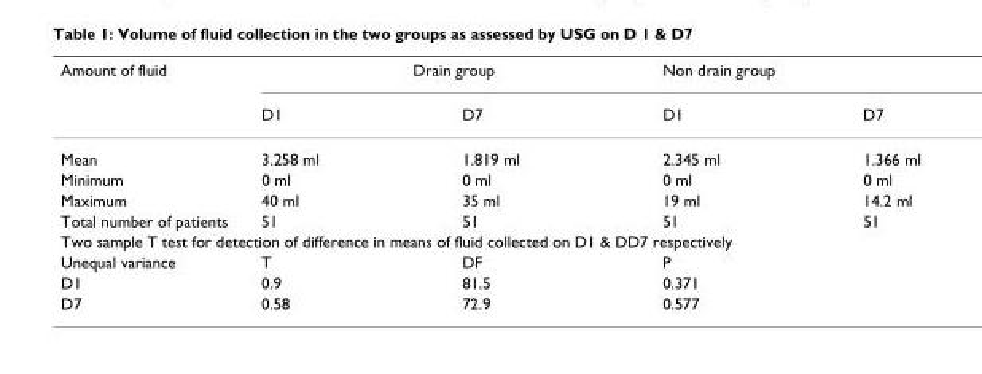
<table><thead><tr><td rowspan="2">Amount of fluid</td><td colspan="2">Drain group</td><td colspan="2">Non drain group</td></tr><tr><td>D1</td><td>D7</td><td>D1</td><td>D7</td></tr></thead><tbody><tr><td>Mean</td><td>3.258 ml</td><td>1.819 ml</td><td>2.345 ml</td><td>1.366 ml</td></tr><tr><td>Minimum</td><td>0 ml</td><td>0 ml</td><td>0 ml</td><td>0 ml</td></tr><tr><td>Maximum</td><td>40 ml</td><td>35 ml</td><td>19 ml</td><td>14.2 ml</td></tr><tr><td>Total number of patients</td><td>51</td><td>51</td><td>51</td><td>51</td></tr><tr><td colspan="5">Two sample T test for detection of difference in means of fluid collected on D1 &amp; DD7 respectively</td></tr><tr><td>Unequal variance</td><td>T</td><td>DF</td><td>P</td><td></td></tr><tr><td>D1</td><td>0.9</td><td>81.5</td><td>0.371</td><td></td></tr><tr><td>D7</td><td>0.58</td><td>72.9</td><td>0.577</td><td></td></tr></tbody></table>